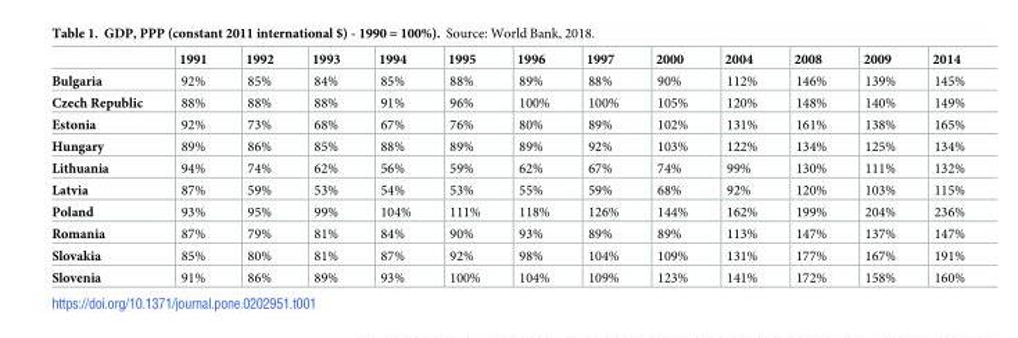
<table><thead><tr><td></td><td>1991</td><td>1992</td><td>1993</td><td>1994</td><td>1995</td><td>1996</td><td>1997</td><td>2000</td><td>2004</td><td>2008</td><td>2009</td><td>2014</td></tr></thead><tbody><tr><td>Bulgaria</td><td>92%</td><td>85%</td><td>84%</td><td>85%</td><td>88%</td><td>89%</td><td>88%</td><td>90%</td><td>112%</td><td>146%</td><td>139%</td><td>145%</td></tr><tr><td>Czech Republic</td><td>88%</td><td>88%</td><td>88%</td><td>91%</td><td>96%</td><td>100%</td><td>100%</td><td>105%</td><td>120%</td><td>148%</td><td>140%</td><td>149%</td></tr><tr><td>Estonia</td><td>92%</td><td>73%</td><td>68%</td><td>67%</td><td>76%</td><td>80%</td><td>89%</td><td>102%</td><td>131%</td><td>161%</td><td>138%</td><td>165%</td></tr><tr><td>Hungary</td><td>89%</td><td>86%</td><td>85%</td><td>88%</td><td>89%</td><td>89%</td><td>92%</td><td>103%</td><td>122%</td><td>134%</td><td>125%</td><td>134%</td></tr><tr><td>Lithuania</td><td>94%</td><td>74%</td><td>62%</td><td>56%</td><td>59%</td><td>62%</td><td>67%</td><td>74%</td><td>99%</td><td>130%</td><td>111%</td><td>132%</td></tr><tr><td>Latvia</td><td>87%</td><td>59%</td><td>53%</td><td>54%</td><td>53%</td><td>55%</td><td>59%</td><td>68%</td><td>92%</td><td>120%</td><td>103%</td><td>115%</td></tr><tr><td>Poland</td><td>93%</td><td>95%</td><td>99%</td><td>104%</td><td>111%</td><td>118%</td><td>126%</td><td>144%</td><td>162%</td><td>199%</td><td>204%</td><td>236%</td></tr><tr><td>Romania</td><td>87%</td><td>79%</td><td>81%</td><td>84%</td><td>90%</td><td>93%</td><td>89%</td><td>89%</td><td>113%</td><td>147%</td><td>137%</td><td>147%</td></tr><tr><td>Slovakia</td><td>85%</td><td>80%</td><td>81%</td><td>87%</td><td>92%</td><td>98%</td><td>104%</td><td>109%</td><td>131%</td><td>177%</td><td>167%</td><td>191%</td></tr><tr><td>Slovenia</td><td>91%</td><td>86%</td><td>89%</td><td>93%</td><td>100%</td><td>104%</td><td>109%</td><td>123%</td><td>141%</td><td>172%</td><td>158%</td><td>160%</td></tr></tbody></table>